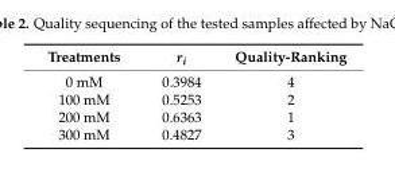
<table><thead><tr><td>Treatments</td><td>r<sub>i</sub></td><td>Quality-Ranking</td></tr></thead><tbody><tr><td>0 mM</td><td>0.3984</td><td>4</td></tr><tr><td>100 mM</td><td>0.5253</td><td>2</td></tr><tr><td>200 mM</td><td>0.6363</td><td>1</td></tr><tr><td>300 mM</td><td>0.4827</td><td>3</td></tr></tbody></table>